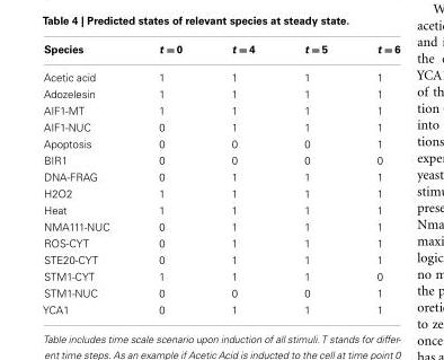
<table><thead><tr><td>Species</td><td>t = 0</td><td>t = 4</td><td>t = 5</td><td>t = 6</td></tr></thead><tbody><tr><td>Acetic acid</td><td>1</td><td>1</td><td>1</td><td>1</td></tr><tr><td>Adozelesin</td><td>1</td><td>1</td><td>1</td><td>1</td></tr><tr><td>AIF1-MT</td><td>1</td><td>1</td><td>1</td><td>1</td></tr><tr><td>AIF1-NUC</td><td>0</td><td>1</td><td>1</td><td>1</td></tr><tr><td>Apoptosis</td><td>0</td><td>0</td><td>0</td><td>1</td></tr><tr><td>BIR1</td><td>0</td><td>0</td><td>0</td><td>0</td></tr><tr><td>DNA-FRAG</td><td>0</td><td>1</td><td>1</td><td>1</td></tr><tr><td>H2O2</td><td>1</td><td>1</td><td>1</td><td>1</td></tr><tr><td>Heat</td><td>1</td><td>1</td><td>1</td><td>1</td></tr><tr><td>NMA111-NUC</td><td>0</td><td>1</td><td>1</td><td>1</td></tr><tr><td>ROS-CYT</td><td>0</td><td>1</td><td>1</td><td>1</td></tr><tr><td>STE20-CYT</td><td>0</td><td>1</td><td>1</td><td>1</td></tr><tr><td>STM1-CYT</td><td>1</td><td>1</td><td>1</td><td>0</td></tr><tr><td>STM1-NUC</td><td>0</td><td>0</td><td>0</td><td>1</td></tr><tr><td>YCA1</td><td>0</td><td>1</td><td>1</td><td>1</td></tr></tbody></table>